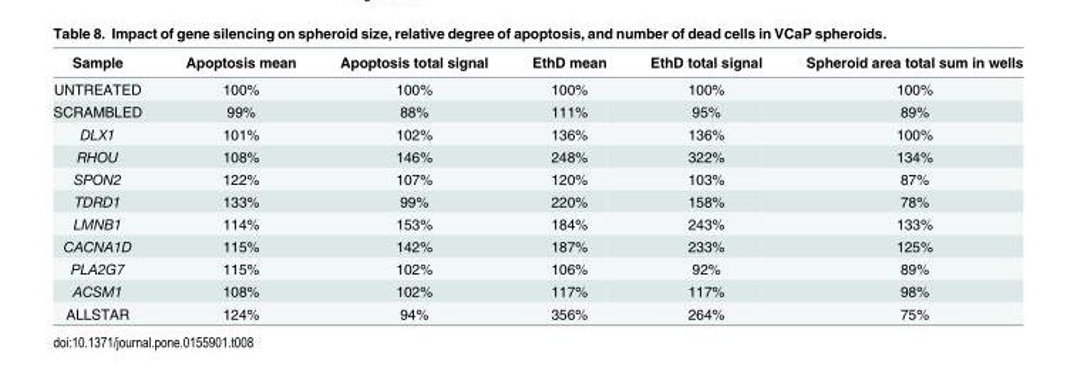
<table><thead><tr><td>Sample</td><td>Apoptosis mean</td><td>Apoptosis total signal</td><td>EthD mean</td><td>EthD total signal</td><td>Spheroid area total sum in wells</td></tr></thead><tbody><tr><td>UNTREATED</td><td>100%</td><td>100%</td><td>100%</td><td>100%</td><td>100%</td></tr><tr><td>SCRAMBLED</td><td>99%</td><td>88%</td><td>111%</td><td>95%</td><td>89%</td></tr><tr><td>DLX1</td><td>101%</td><td>102%</td><td>136%</td><td>136%</td><td>100%</td></tr><tr><td>RHOU</td><td>108%</td><td>146%</td><td>248%</td><td>322%</td><td>134%</td></tr><tr><td>SPON2</td><td>122%</td><td>107%</td><td>120%</td><td>103%</td><td>87%</td></tr><tr><td>TDRD1</td><td>133%</td><td>99%</td><td>220%</td><td>158%</td><td>78%</td></tr><tr><td>LMNB1</td><td>114%</td><td>153%</td><td>184%</td><td>243%</td><td>133%</td></tr><tr><td>CACNA1D</td><td>115%</td><td>142%</td><td>187%</td><td>233%</td><td>125%</td></tr><tr><td>PLA2G7</td><td>115%</td><td>102%</td><td>106%</td><td>92%</td><td>89%</td></tr><tr><td>ACSM1</td><td>108%</td><td>102%</td><td>117%</td><td>117%</td><td>98%</td></tr><tr><td>ALLSTAR</td><td>124%</td><td>94%</td><td>356%</td><td>264%</td><td>75%</td></tr></tbody></table>